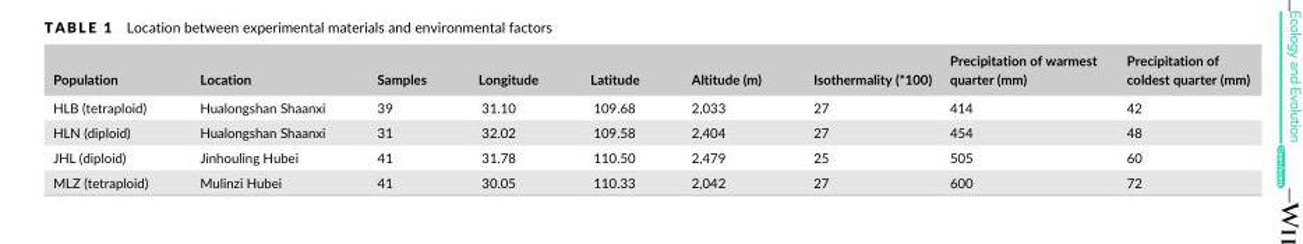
<table><thead><tr><td>Population</td><td>Location</td><td>Samples</td><td>Longitude</td><td>Latitude</td><td>Altitude (m)</td><td>Isothermality (*100)</td><td>Precipitation of warmest quarter (mm)</td><td>Precipitation of coldest quarter (mm)</td></tr></thead><tbody><tr><td>HLB (tetraploid)</td><td>Hualongshan Shaanxi</td><td>39</td><td>31.10</td><td>109.68</td><td>2,033</td><td>27</td><td>414</td><td>42</td></tr><tr><td>HLN (diploid)</td><td>Hualongshan Shaanxi</td><td>31</td><td>32.02</td><td>109.58</td><td>2,404</td><td>27</td><td>454</td><td>48</td></tr><tr><td>JHL (diploid)</td><td>Jinhouling Hubei</td><td>41</td><td>31.78</td><td>110.50</td><td>2,479</td><td>25</td><td>505</td><td>60</td></tr><tr><td>MLZ (tetraploid)</td><td>Mulinzi Hubei</td><td>41</td><td>30.05</td><td>110.33</td><td>2,042</td><td>27</td><td>600</td><td>72</td></tr></tbody></table>